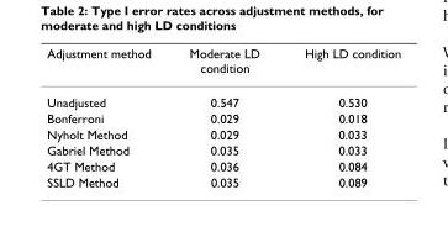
<table><thead><tr><td>Adjustment method</td><td>Moderate LD condition</td><td>High LD condition</td></tr></thead><tbody><tr><td>Unadjusted</td><td>0.547</td><td>0.530</td></tr><tr><td>Bonferroni</td><td>0.029</td><td>0.018</td></tr><tr><td>Nyholt Method</td><td>0.029</td><td>0.033</td></tr><tr><td>Gabriel Method</td><td>0.035</td><td>0.033</td></tr><tr><td>4GT Method</td><td>0.036</td><td>0.084</td></tr><tr><td>SSLD Method</td><td>0.035</td><td>0.089</td></tr></tbody></table>